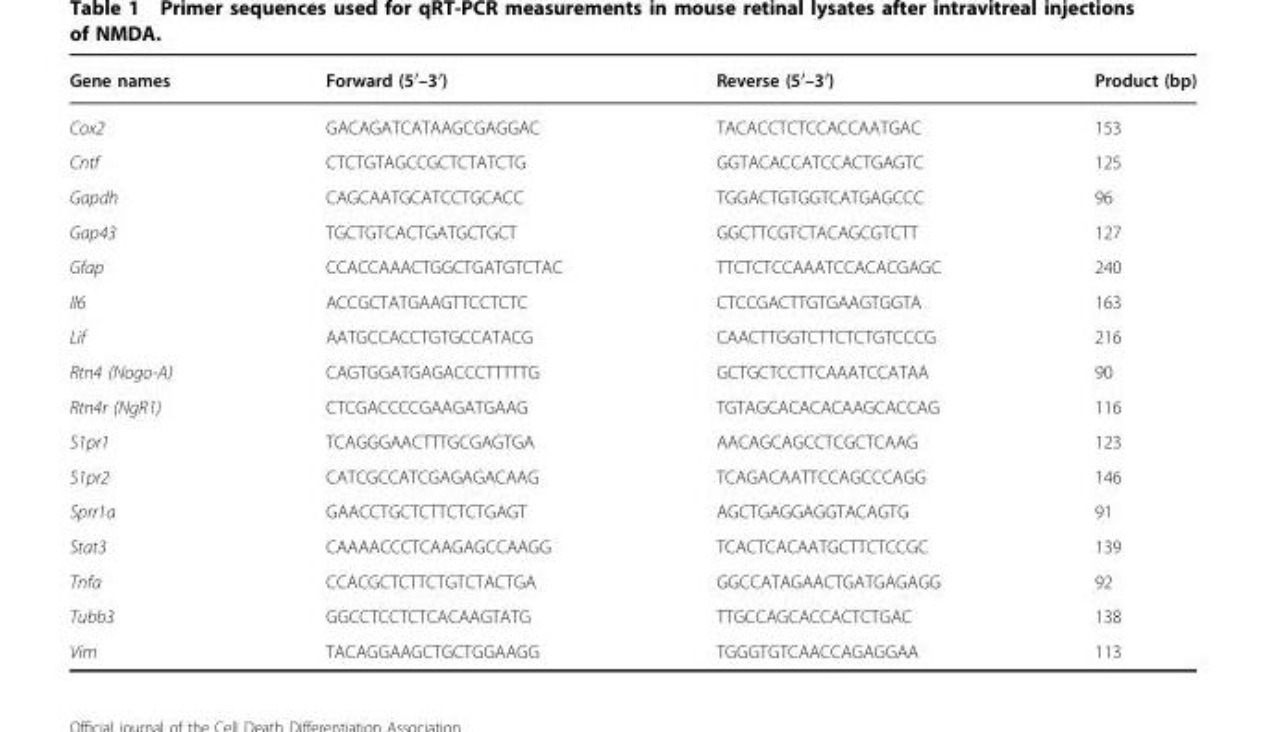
<table><thead><tr><td>Gene names</td><td>Forward (5′–3′)</td><td>Reverse (5′–3′)</td><td>Product (bp)</td></tr></thead><tbody><tr><td>Cox2</td><td>GACAGATCATAAGCGAGGAC</td><td>TACACCTCTCCACCAATGAC</td><td>153</td></tr><tr><td>Cntf</td><td>CTCTGTAGCCGCTCTATCTG</td><td>GGTACACCATCCACTGAGTC</td><td>125</td></tr><tr><td>Gapdh</td><td>CAGCAATGCATCCTGCACC</td><td>TGGACTGTGGTCATGAGCCC</td><td>96</td></tr><tr><td>Gap43</td><td>TGCTGTCACTGATGCTGCT</td><td>GGCTTCGTCTACAGCGTCTT</td><td>127</td></tr><tr><td>Gfap</td><td>CCACCAAACTGGCTGATGTCTAC</td><td>TTCTCTCCAAATCCACACGAGC</td><td>240</td></tr><tr><td>Il6</td><td>ACCGCTATGAAGTTCCTCTC</td><td>CTCCGACTTGTGAAGTGGTA</td><td>163</td></tr><tr><td>Lif</td><td>AATGCCACCTGTGCCATACG</td><td>CAACTTGGTCTTCTCTGTCCCG</td><td>216</td></tr><tr><td>Rtn4 (Nogo-A)</td><td>CAGTGGATGAGACCCTTTTTG</td><td>GCTGCTCCTTCAAATCCATAA</td><td>90</td></tr><tr><td>Rtn4r (NgR1)</td><td>CTCGACCCCGAAGATGAAG</td><td>TGTAGCACACACAAGCACCAG</td><td>116</td></tr><tr><td>S1pr1</td><td>TCAGGGAACTTTGCGAGTGA</td><td>AACAGCAGCCTCGCTCAAG</td><td>123</td></tr><tr><td>S1pr2</td><td>CATCGCCATCGAGAGACAAG</td><td>TCAGACAATTCCAGCCCAGG</td><td>146</td></tr><tr><td>Sprr1a</td><td>GAACCTGCTCTTCTCTGAGT</td><td>AGCTGAGGAGGTACAGTG</td><td>91</td></tr><tr><td>Stat3</td><td>CAAAACCCTCAAGAGCCAAGG</td><td>TCACTCACAATGCTTCTCCGC</td><td>139</td></tr><tr><td>Tnfa</td><td>CCACGCTCTTCTGTCTACTGA</td><td>GGCCATAGAACTGATGAGAGG</td><td>92</td></tr><tr><td>Tubb3</td><td>GGCCTCCTCTCACAAGTATG</td><td>TTGCCAGCACCACTCTGAC</td><td>138</td></tr><tr><td>Vim</td><td>TACAGGAAGCTGCTGGAAGG</td><td>TGGGTGTCAACCAGAGGAA</td><td>113</td></tr></tbody></table>